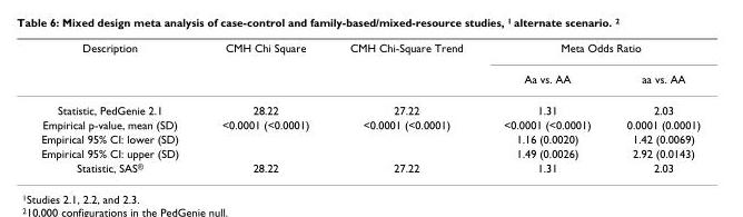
<table><thead><tr><td rowspan="2">Description</td><td rowspan="2">CMH Chi Square</td><td rowspan="2">CMH Chi-Square Trend</td><td colspan="2">Meta Odds Ratio</td></tr><tr><td>Aa vs. AA</td><td>aa vs. AA</td></tr></thead><tbody><tr><td>Statistic, PedGenie 2.1</td><td>28.22</td><td>27.22</td><td>1.31</td><td>2.03</td></tr><tr><td>Empirical p-value, mean (SD)</td><td>&lt;0.0001 (&lt;0.0001)</td><td>&lt;0.0001 (&lt;0.0001)</td><td>&lt;0.0001 (&lt;0.0001)</td><td>0.0001 (0.0001)</td></tr><tr><td>Empirical 95% CI: lower (SD)</td><td></td><td></td><td>1.16 (0.0020)</td><td>1.42 (0.0069)</td></tr><tr><td>Empirical 95% CI: upper (SD)</td><td></td><td></td><td>1.49 (0.0026)</td><td>2.92 (0.0143)</td></tr><tr><td>Statistic, SAS<sup>®</sup></td><td>28.22</td><td>27.22</td><td>1.31</td><td>2.03</td></tr></tbody></table>